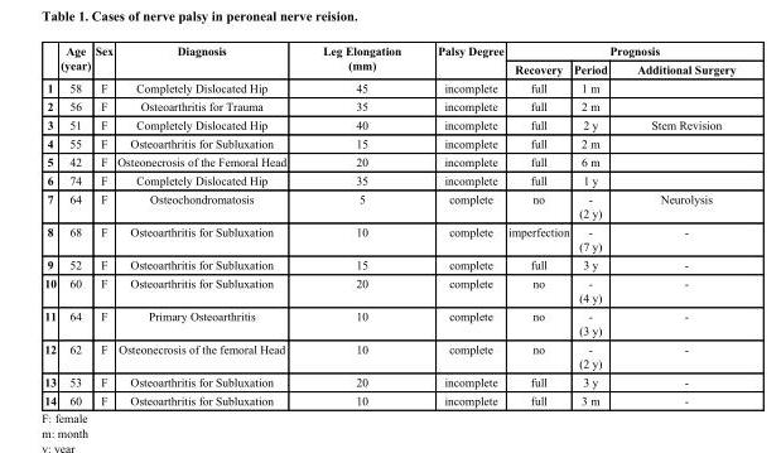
<table><thead><tr><td rowspan="2"></td><td rowspan="2">Age (year)</td><td rowspan="2">Sex</td><td rowspan="2">Diagnosis</td><td rowspan="2">Leg Elongation (mm)</td><td rowspan="2">Palsy Degree</td><td colspan="3">Prognosis</td></tr><tr><td>Recovery</td><td>Period</td><td>Additional Surgery</td></tr></thead><tbody><tr><td>1</td><td>58</td><td>F</td><td>Completely Dislocated Hip</td><td>45</td><td>incomplete</td><td>full</td><td>1 m</td><td></td></tr><tr><td>2</td><td>56</td><td>F</td><td>Osteoarthritis for Trauma</td><td>35</td><td>incomplete</td><td>full</td><td>2 m</td><td></td></tr><tr><td>3</td><td>51</td><td>F</td><td>Completely Dislocated Hip</td><td>40</td><td>incomplete</td><td>full</td><td>2 y</td><td>Stem Revision</td></tr><tr><td>4</td><td>55</td><td>F</td><td>Osteoarthritis for Subluxation</td><td>15</td><td>incomplete</td><td>full</td><td>2 m</td><td></td></tr><tr><td>5</td><td>42</td><td>F</td><td>Osteonecrosis of the Femoral Head</td><td>20</td><td>incomplete</td><td>full</td><td>6 m</td><td></td></tr><tr><td>6</td><td>74</td><td>F</td><td>Completely Dislocated Hip</td><td>35</td><td>incomplete</td><td>full</td><td>1 y</td><td></td></tr><tr><td>7</td><td>64</td><td>F</td><td>Osteochondromatosis</td><td>5</td><td>complete</td><td>no</td><td>- (2 y)</td><td>Neurolysis</td></tr><tr><td>8</td><td>68</td><td>F</td><td>Osteoarthritis for Subluxation</td><td>10</td><td>complete</td><td>imperfection</td><td>- (7 y)</td><td>-</td></tr><tr><td>9</td><td>52</td><td>F</td><td>Osteoarthritis for Subluxation</td><td>15</td><td>complete</td><td>full</td><td>3 y</td><td>-</td></tr><tr><td>10</td><td>60</td><td>F</td><td>Osteoarthritis for Subluxation</td><td>20</td><td>complete</td><td>no</td><td>- (4 y)</td><td>-</td></tr><tr><td>11</td><td>64</td><td>F</td><td>Primary Osteoarthritis</td><td>10</td><td>complete</td><td>no</td><td>- (3 y)</td><td>-</td></tr><tr><td>12</td><td>62</td><td>F</td><td>Osteonecrosis of the femoral Head</td><td>10</td><td>complete</td><td>no</td><td>- (2 y)</td><td>-</td></tr><tr><td>13</td><td>53</td><td>F</td><td>Osteoarthritis for Subluxation</td><td>20</td><td>incomplete</td><td>full</td><td>3 y</td><td>-</td></tr><tr><td>14</td><td>60</td><td>F</td><td>Osteoarthritis for Subluxation</td><td>10</td><td>incomplete</td><td>full</td><td>3 m</td><td>-</td></tr></tbody></table>